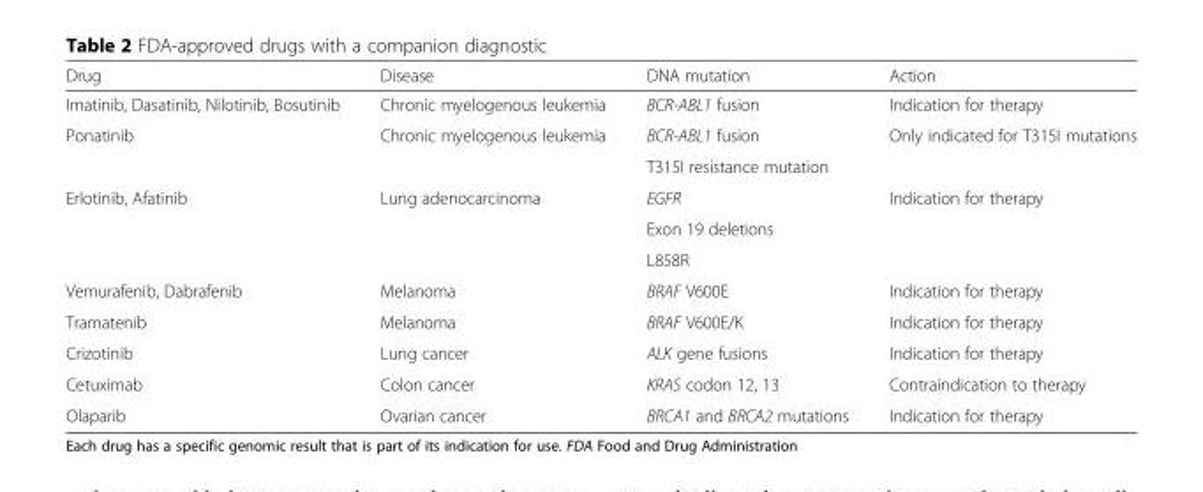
<table><thead><tr><td>Drug</td><td>Disease</td><td>DNA mutation</td><td>Action</td></tr></thead><tbody><tr><td>Imatinib, Dasatinib, Nilotinib, Bosutinib</td><td>Chronic myelogenous leukemia</td><td>BCR-ABL1 fusion</td><td>Indication for therapy</td></tr><tr><td rowspan="2">Ponatinib</td><td rowspan="2">Chronic myelogenous leukemia</td><td>BCR-ABL1 fusion</td><td rowspan="2">Only indicated for T315I mutations</td></tr><tr><td>T315I resistance mutation</td></tr><tr><td rowspan="3">Erlotinib, Afatinib</td><td rowspan="3">Lung adenocarcinoma</td><td>EGFR</td><td rowspan="3">Indication for therapy</td></tr><tr><td>Exon 19 deletions</td></tr><tr><td>L858R</td></tr><tr><td>Vemurafenib, Dabrafenib</td><td>Melanoma</td><td>BRAF V600E</td><td>Indication for therapy</td></tr><tr><td>Tramatenib</td><td>Melanoma</td><td>BRAF V600E/K</td><td>Indication for therapy</td></tr><tr><td>Crizotinib</td><td>Lung cancer</td><td>ALK gene fusions</td><td>Indication for therapy</td></tr><tr><td>Cetuximab</td><td>Colon cancer</td><td>KRAS codon 12, 13</td><td>Contraindication to therapy</td></tr><tr><td>Olaparib</td><td>Ovarian cancer</td><td>BRCA1 and BRCA2 mutations</td><td>Indication for therapy</td></tr></tbody></table>